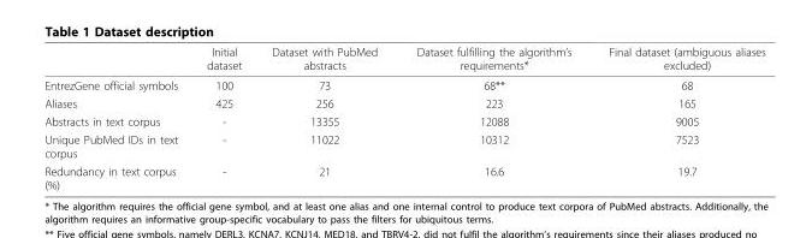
<table><thead><tr><td></td><td>Initial dataset</td><td>Dataset with PubMed abstracts</td><td>Dataset fulfilling the algorithm’s requirements*</td><td>Final dataset (ambiguous aliases excluded)</td></tr></thead><tbody><tr><td>EntrezGene official symbols</td><td>100</td><td>73</td><td>68**</td><td>68</td></tr><tr><td>Aliases</td><td>425</td><td>256</td><td>223</td><td>165</td></tr><tr><td>Abstracts in text corpus</td><td>-</td><td>13355</td><td>12088</td><td>9005</td></tr><tr><td>Unique PubMed IDs in text corpus</td><td>-</td><td>11022</td><td>10312</td><td>7523</td></tr><tr><td>Redundancy in text corpus (%)</td><td>-</td><td>21</td><td>16.6</td><td>19.7</td></tr></tbody></table>